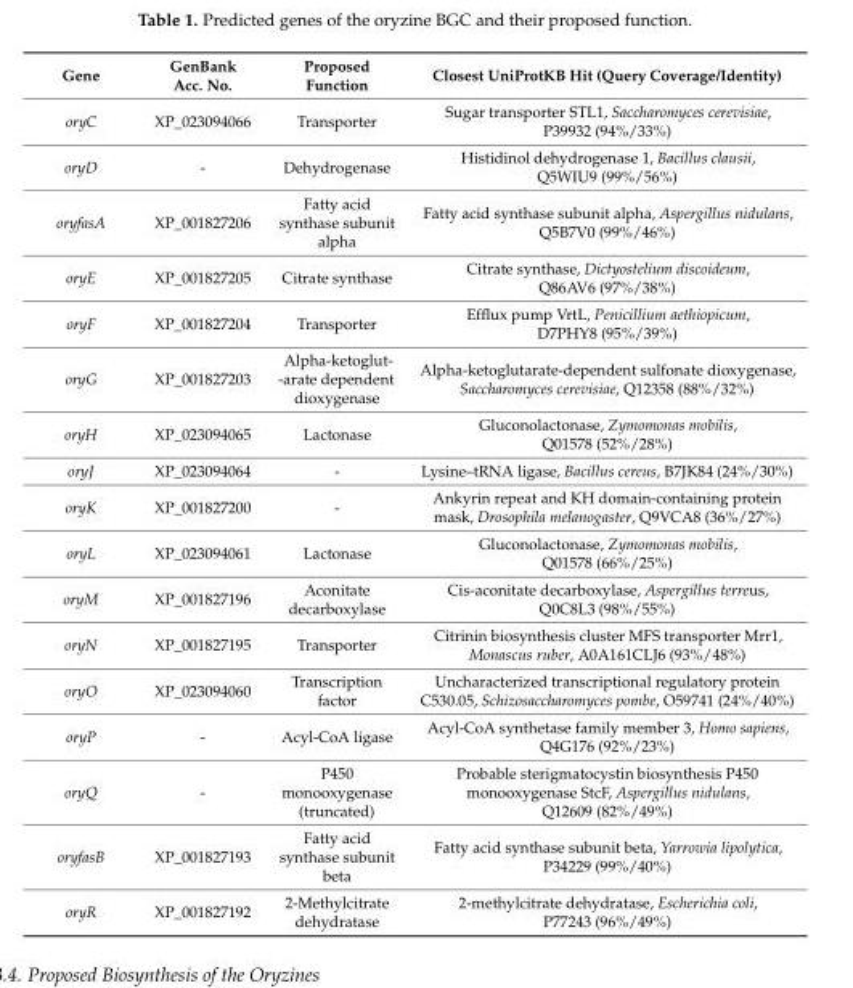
<table><thead><tr><td>Gene</td><td>GenBank Acc. No.</td><td>Proposed Function</td><td>Closest UniProtKB Hit (Query Coverage/Identity)</td></tr></thead><tbody><tr><td>oryC</td><td>XP_023094066</td><td>Transporter</td><td>Sugar transporter STL1, Saccharomyces cerevisiae, P39932 (94%/33%)</td></tr><tr><td>oryD</td><td>-</td><td>Dehydrogenase</td><td>Histidinol dehydrogenase 1, Bacillus clausii, Q5WIU9 (99%/56%)</td></tr><tr><td>oryfasA</td><td>XP_001827206</td><td>Fatty acid synthase subunit alpha</td><td>Fatty acid synthase subunit alpha, Aspergillus nidulans, Q5B7V0 (99%/46%)</td></tr><tr><td>oryE</td><td>XP_001827205</td><td>Citrate synthase</td><td>Citrate synthase, Dictyostelium discoideum, Q86AV6 (97%/38%)</td></tr><tr><td>oryF</td><td>XP_001827204</td><td>Transporter</td><td>Efflux pump VrtL, Penicillium aethiopicum, D7PHY8 (95%/39%)</td></tr><tr><td>oryG</td><td>XP_001827203</td><td>Alpha-ketoglut- -arate dependent dioxygenase</td><td>Alpha-ketoglutarate-dependent sulfonate dioxygenase, Saccharomyces cerevisiae, Q12358 (88%/32%)</td></tr><tr><td>oryH</td><td>XP_023094065</td><td>Lactonase</td><td>Gluconolactonase, Zymomonas mobilis, Q01578 (52%/28%)</td></tr><tr><td>oryJ</td><td>XP_023094064</td><td>-</td><td>Lysine–tRNA ligase, Bacillus cereus, B7JK84 (24%/30%)</td></tr><tr><td>oryK</td><td>XP_001827200</td><td>-</td><td>Ankyrin repeat and KH domain-containing protein mask, Drosophila melanogaster, Q9VCA8 (36%/27%)</td></tr><tr><td>oryL</td><td>XP_023094061</td><td>Lactonase</td><td>Gluconolactonase, Zymomonas mobilis, Q01578 (66%/25%)</td></tr><tr><td>oryM</td><td>XP_001827196</td><td>Aconitate decarboxylase</td><td>Cis-aconitate decarboxylase, Aspergillus terreus, Q0C8L3 (98%/55%)</td></tr><tr><td>oryN</td><td>XP_001827195</td><td>Transporter</td><td>Citrinin biosynthesis cluster MFS transporter Mrr1, Monascus ruber, A0A161CLJ6 (93%/48%)</td></tr><tr><td>oryO</td><td>XP_023094060</td><td>Transcription factor</td><td>Uncharacterized transcriptional regulatory protein C530.05, Schizosaccharomyces pombe, O59741 (24%/40%)</td></tr><tr><td>oryP</td><td>-</td><td>Acyl-CoA ligase</td><td>Acyl-CoA synthetase family member 3, Homo sapiens, Q4G176 (92%/23%)</td></tr><tr><td>oryQ</td><td>-</td><td>P450 monooxygenase (truncated)</td><td>Probable sterigmatocystin biosynthesis P450 monooxygenase StcF, Aspergillus nidulans, Q12609 (82%/49%)</td></tr><tr><td>oryfasB</td><td>XP_001827193</td><td>Fatty acid synthase subunit beta</td><td>Fatty acid synthase subunit beta, Yarrowia lipolytica, P34229 (99%/40%)</td></tr><tr><td>oryR</td><td>XP_001827192</td><td>2-Methylcitrate dehydratase</td><td>2-methylcitrate dehydratase, Escherichia coli, P77243 (96%/49%)</td></tr></tbody></table>